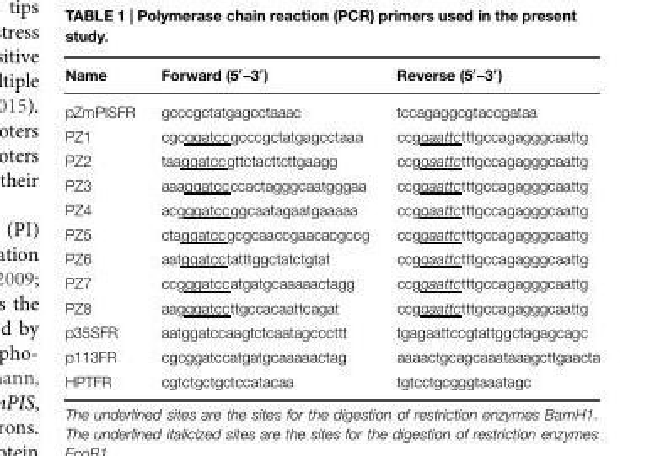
<table><thead><tr><td>Name</td><td>Forward (5′–3′)</td><td>Reverse (5′–3′)</td></tr></thead><tbody><tr><td>pZmPISFR</td><td>gcccgctatgagcctaaac</td><td>tccagaggcgtaccgataa</td></tr><tr><td>PZ1</td><td>cgcggatccgcccgctatgagcctaaa</td><td>ccggaattctttgccagagggcaattg</td></tr><tr><td>PZ2</td><td>taaggatccgttctacttcttgaagg</td><td>ccggaattctttgccagagggcaattg</td></tr><tr><td>PZ3</td><td>aaaggatccccactagggcaatgggaa</td><td>ccggaattctttgccagagggcaattg</td></tr><tr><td>PZ4</td><td>acgggatccggcaatagaatgaaaaa</td><td>ccggaattctttgccagagggcaattg</td></tr><tr><td>PZ5</td><td>ctaggatccgcgcaaccgaacacgccg</td><td>ccggaattctttgccagagggcaattg</td></tr><tr><td>PZ6</td><td>aatggatcctatttggctatctgtat</td><td>ccggaattctttgccagagggcaattg</td></tr><tr><td>PZ7</td><td>ccgggatccatgatgcaaaaactagg</td><td>ccggaattctttgccagagggcaattg</td></tr><tr><td>PZ8</td><td>aagggatccttgccacaattcagat</td><td>ccggaattctttgccagagggcaattg</td></tr><tr><td>p35SFR</td><td>aatggatccaagtctcaatagcccttt</td><td>tgagaattccgtattggctagagcagc</td></tr><tr><td>p113FR</td><td>cgcggatccatgatgcaaaaactag</td><td>aaaactgcagcaaataaagcttgaacta</td></tr><tr><td>HPTFR</td><td>cgtctgctgctccatacaa</td><td>tgtcctgcgggtaaatagc</td></tr></tbody></table>